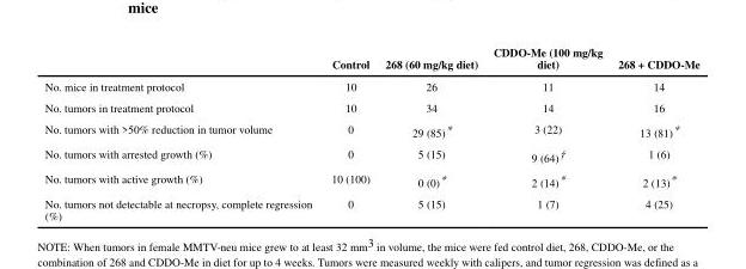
<table><thead><tr><td></td><td>Control</td><td>268 (60 mg/kg diet)</td><td>CDDO-Me (100 mg/kg diet)</td><td>268 + CDDO-Me</td></tr></thead><tbody><tr><td>No. mice in treatment protocol</td><td>10</td><td>26</td><td>11</td><td>14</td></tr><tr><td>No. tumors in treatment protocol</td><td>10</td><td>34</td><td>14</td><td>16</td></tr><tr><td>No. tumors with &gt;50% reduction in tumor volume</td><td>0</td><td>29 (85)*</td><td>3 (22)</td><td>13 (81)*</td></tr><tr><td>No. tumors with arrested growth (%)</td><td>0</td><td>5 (15)</td><td>9 (64)†</td><td>1 (6)</td></tr><tr><td>No. tumors with active growth (%)</td><td>10 (100)</td><td>0 (0)*</td><td>2 (14)*</td><td>2 (13)*</td></tr><tr><td>No. tumors not detectable at necropsy, complete regression (%)</td><td>0</td><td>5 (15)</td><td>1 (7)</td><td>4 (25)</td></tr></tbody></table>